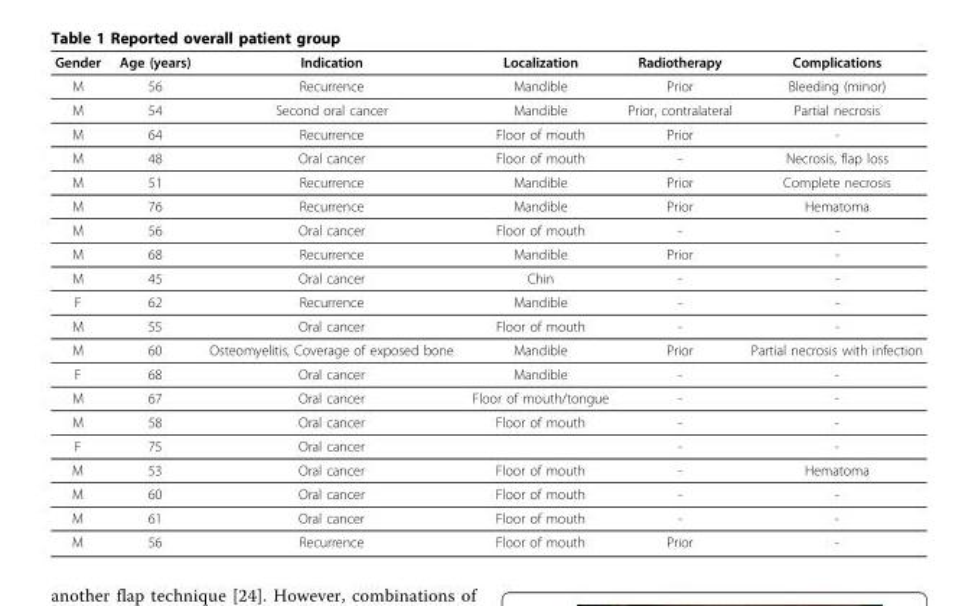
<table><thead><tr><td>Gender</td><td>Age (years)</td><td>Indication</td><td>Localization</td><td>Radiotherapy</td><td>Complications</td></tr></thead><tbody><tr><td>M</td><td>56</td><td>Recurrence</td><td>Mandible</td><td>Prior</td><td>Bleeding (minor)</td></tr><tr><td>M</td><td>54</td><td>Second oral cancer</td><td>Mandible</td><td>Prior, contralateral</td><td>Partial necrosis</td></tr><tr><td>M</td><td>64</td><td>Recurrence</td><td>Floor of mouth</td><td>Prior</td><td>-</td></tr><tr><td>M</td><td>48</td><td>Oral cancer</td><td>Floor of mouth</td><td>-</td><td>Necrosis, flap loss</td></tr><tr><td>M</td><td>51</td><td>Recurrence</td><td>Mandible</td><td>Prior</td><td>Complete necrosis</td></tr><tr><td>M</td><td>76</td><td>Recurrence</td><td>Mandible</td><td>Prior</td><td>Hematoma</td></tr><tr><td>M</td><td>56</td><td>Oral cancer</td><td>Floor of mouth</td><td>-</td><td>-</td></tr><tr><td>M</td><td>68</td><td>Recurrence</td><td>Mandible</td><td>Prior</td><td>-</td></tr><tr><td>M</td><td>45</td><td>Oral cancer</td><td>Chin</td><td>-</td><td>-</td></tr><tr><td>F</td><td>62</td><td>Recurrence</td><td>Mandible</td><td>-</td><td>-</td></tr><tr><td>M</td><td>55</td><td>Oral cancer</td><td>Floor of mouth</td><td>-</td><td>-</td></tr><tr><td>M</td><td>60</td><td>Osteomyelitis, Coverage of exposed bone</td><td>Mandible</td><td>Prior</td><td>Partial necrosis with infection</td></tr><tr><td>F</td><td>68</td><td>Oral cancer</td><td>Mandible</td><td>-</td><td>-</td></tr><tr><td>M</td><td>67</td><td>Oral cancer</td><td>Floor of mouth/tongue</td><td>-</td><td>-</td></tr><tr><td>M</td><td>58</td><td>Oral cancer</td><td>Floor of mouth</td><td>-</td><td>-</td></tr><tr><td>F</td><td>75</td><td>Oral cancer</td><td></td><td>-</td><td>-</td></tr><tr><td>M</td><td>53</td><td>Oral cancer</td><td>Floor of mouth</td><td>-</td><td>Hematoma</td></tr><tr><td>M</td><td>60</td><td>Oral cancer</td><td>Floor of mouth</td><td>-</td><td>-</td></tr><tr><td>M</td><td>61</td><td>Oral cancer</td><td>Floor of mouth</td><td>-</td><td>-</td></tr><tr><td>M</td><td>56</td><td>Recurrence</td><td>Floor of mouth</td><td>Prior</td><td>-</td></tr></tbody></table>